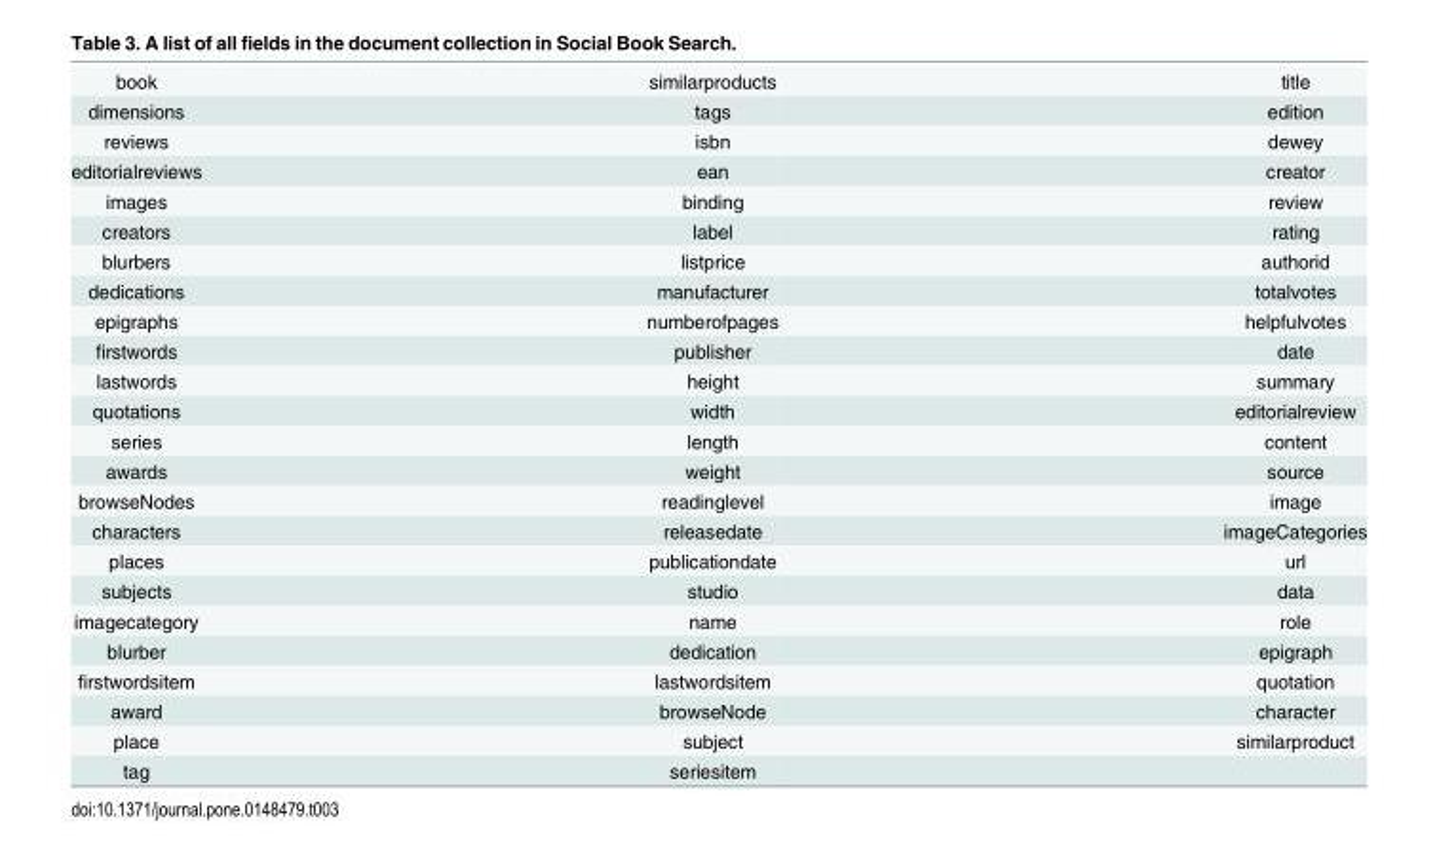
<table><tbody><tr><td>book</td><td>similarproducts</td><td>title</td></tr><tr><td>dimensions</td><td>tags</td><td>edition</td></tr><tr><td>reviews</td><td>isbn</td><td>dewey</td></tr><tr><td>editorialreviews</td><td>ean</td><td>creator</td></tr><tr><td>images</td><td>binding</td><td>review</td></tr><tr><td>creators</td><td>label</td><td>rating</td></tr><tr><td>blurbers</td><td>listprice</td><td>authorid</td></tr><tr><td>dedications</td><td>manufacturer</td><td>totalvotes</td></tr><tr><td>epigraphs</td><td>numberofpages</td><td>helpfulvotes</td></tr><tr><td>firstwords</td><td>publisher</td><td>date</td></tr><tr><td>lastwords</td><td>height</td><td>summary</td></tr><tr><td>quotations</td><td>width</td><td>editorialreview</td></tr><tr><td>series</td><td>length</td><td>content</td></tr><tr><td>awards</td><td>weight</td><td>source</td></tr><tr><td>browseNodes</td><td>readinglevel</td><td>image</td></tr><tr><td>characters</td><td>releasedate</td><td>imageCategories</td></tr><tr><td>places</td><td>publicationdate</td><td>url</td></tr><tr><td>subjects</td><td>studio</td><td>data</td></tr><tr><td>imagecategory</td><td>name</td><td>role</td></tr><tr><td>blurber</td><td>dedication</td><td>epigraph</td></tr><tr><td>firstwordsitem</td><td>lastwordsitem</td><td>quotation</td></tr><tr><td>award</td><td>browseNode</td><td>character</td></tr><tr><td>place</td><td>subject</td><td>similarproduct</td></tr><tr><td>tag</td><td>seriesitem</td><td></td></tr></tbody></table>